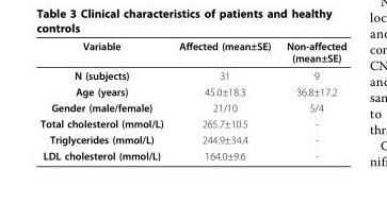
<table><thead><tr><td>Variable</td><td>Affected (mean±SE)</td><td>Non-affected (mean±SE)</td></tr></thead><tbody><tr><td>N (subjects)</td><td>31</td><td>9</td></tr><tr><td>Age (years)</td><td>45.0±18.3</td><td>36.8±17.2</td></tr><tr><td>Gender (male/female)</td><td>21/10</td><td>5/4</td></tr><tr><td>Total cholesterol (mmol/L)</td><td>265.7±10.5</td><td>-</td></tr><tr><td>Triglycerides (mmol/L)</td><td>244.9±34.4</td><td>-</td></tr><tr><td>LDL cholesterol (mmol/L)</td><td>164.0±9.6</td><td>-</td></tr></tbody></table>